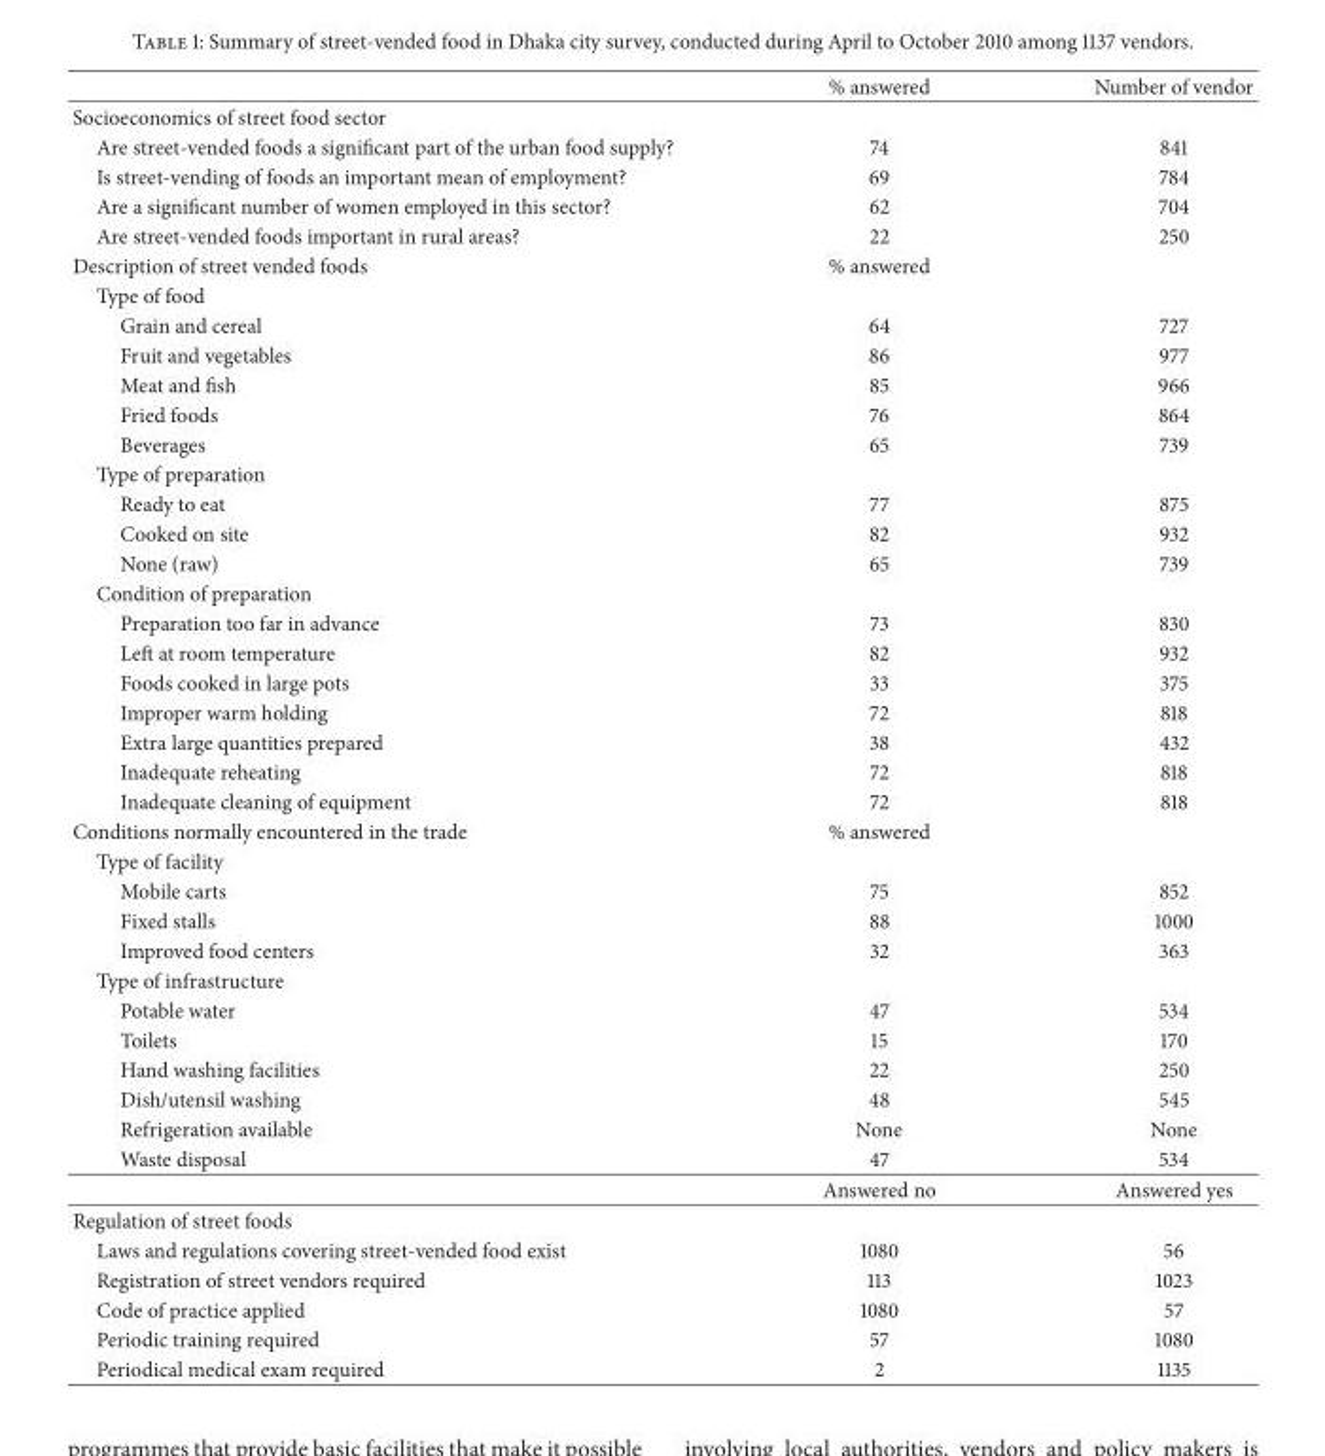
<table><thead><tr><td></td><td>% answered</td><td>Number of vendor</td></tr></thead><tbody><tr><td colspan="3">Socioeconomics of street food sector</td></tr><tr><td>Are street-vended foods a significant part of the urban food supply?</td><td>74</td><td>841</td></tr><tr><td>Is street-vending of foods an important mean of employment?</td><td>69</td><td>784</td></tr><tr><td>Are a significant number of women employed in this sector?</td><td>62</td><td>704</td></tr><tr><td>Are street-vended foods important in rural areas?</td><td>22</td><td>250</td></tr><tr><td>Description of street vended foods</td><td>% answered</td><td></td></tr><tr><td colspan="3">Type of food</td></tr><tr><td>Grain and cereal</td><td>64</td><td>727</td></tr><tr><td>Fruit and vegetables</td><td>86</td><td>977</td></tr><tr><td>Meat and fish</td><td>85</td><td>966</td></tr><tr><td>Fried foods</td><td>76</td><td>864</td></tr><tr><td>Beverages</td><td>65</td><td>739</td></tr><tr><td colspan="3">Type of preparation</td></tr><tr><td>Ready to eat</td><td>77</td><td>875</td></tr><tr><td>Cooked on site</td><td>82</td><td>932</td></tr><tr><td>None (raw)</td><td>65</td><td>739</td></tr><tr><td colspan="3">Condition of preparation</td></tr><tr><td>Preparation too far in advance</td><td>73</td><td>830</td></tr><tr><td>Left at room temperature</td><td>82</td><td>932</td></tr><tr><td>Foods cooked in large pots</td><td>33</td><td>375</td></tr><tr><td>Improper warm holding</td><td>72</td><td>818</td></tr><tr><td>Extra large quantities prepared</td><td>38</td><td>432</td></tr><tr><td>Inadequate reheating</td><td>72</td><td>818</td></tr><tr><td>Inadequate cleaning of equipment</td><td>72</td><td>818</td></tr><tr><td>Conditions normally encountered in the trade</td><td>% answered</td><td></td></tr><tr><td colspan="3">Type of facility</td></tr><tr><td>Mobile carts</td><td>75</td><td>852</td></tr><tr><td>Fixed stalls</td><td>88</td><td>1000</td></tr><tr><td>Improved food centers</td><td>32</td><td>363</td></tr><tr><td colspan="3">Type of infrastructure</td></tr><tr><td>Potable water</td><td>47</td><td>534</td></tr><tr><td>Toilets</td><td>15</td><td>170</td></tr><tr><td>Hand washing facilities</td><td>22</td><td>250</td></tr><tr><td>Dish/utensil washing</td><td>48</td><td>545</td></tr><tr><td>Refrigeration available</td><td>None</td><td>None</td></tr><tr><td rowspan="2">Waste disposal</td><td>47</td><td>534</td></tr><tr><td>Answered no</td><td>Answered yes</td></tr><tr><td colspan="3">Regulation of street foods</td></tr><tr><td>Laws and regulations covering street-vended food exist</td><td>1080</td><td>56</td></tr><tr><td>Registration of street vendors required</td><td>113</td><td>1023</td></tr><tr><td>Code of practice applied</td><td>1080</td><td>57</td></tr><tr><td>Periodic training required</td><td>57</td><td>1080</td></tr><tr><td>Periodical medical exam required</td><td>2</td><td>1135</td></tr></tbody></table>